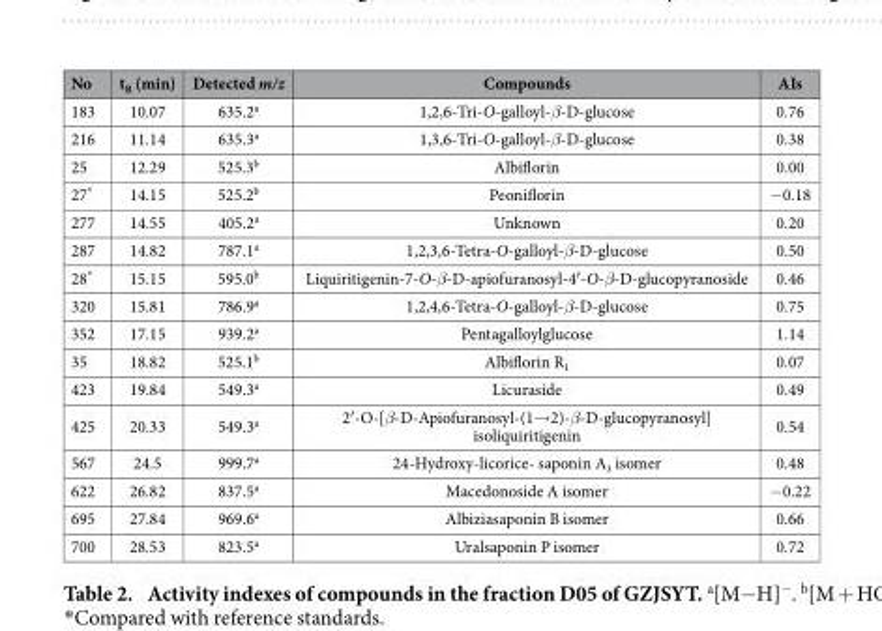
<table><thead><tr><td>No</td><td>t<sub>R</sub> (min)</td><td>Detected m/z</td><td>Compounds</td><td>AIs</td></tr></thead><tbody><tr><td>183</td><td>10.07</td><td>635.2<sup>a</sup></td><td>1,2,6-Tri-O-galloyl-β-D-glucose</td><td>0.76</td></tr><tr><td>216</td><td>11.14</td><td>635.3<sup>a</sup></td><td>1,3,6-Tri-O-galloyl-β-D-glucose</td><td>0.38</td></tr><tr><td>25</td><td>12.29</td><td>525.3<sup>b</sup></td><td>Albiflorin</td><td>0.00</td></tr><tr><td>27*</td><td>14.15</td><td>525.2<sup>b</sup></td><td>Peoniflorin</td><td>− 0.18</td></tr><tr><td>277</td><td>14.55</td><td>405.2<sup>a</sup></td><td>Unknown</td><td>0.20</td></tr><tr><td>287</td><td>14.82</td><td>787.1<sup>a</sup></td><td>1,2,3,6-Tetra-O-galloyl-β-D-glucose</td><td>0.50</td></tr><tr><td>28*</td><td>15.15</td><td>595.0<sup>b</sup></td><td>Liquiritigenin-7-O-β-D-apiofuranosyl-4′ -O-β-D-glucopyranoside</td><td>0.46</td></tr><tr><td>320</td><td>15.81</td><td>786.9<sup>a</sup></td><td>1,2,4,6-Tetra-O-galloyl-β-D-glucose</td><td>0.75</td></tr><tr><td>352</td><td>17.15</td><td>939.2<sup>a</sup></td><td>Pentagalloylglucose</td><td>1.14</td></tr><tr><td>35</td><td>18.82</td><td>525.1<sup>b</sup></td><td>Albiflorin R<sub>1</sub></td><td>0.07</td></tr><tr><td>423</td><td>19.84</td><td>549.3<sup>a</sup></td><td>Licuraside</td><td>0.49</td></tr><tr><td>425</td><td>20.33</td><td>549.3<sup>a</sup></td><td>2′ -O-[β-D-Apiofuranosyl-(1→ 2)-β-D-glucopyranosyl] isoliquiritigenin</td><td>0.54</td></tr><tr><td>567</td><td>24.5</td><td>999.7<sup>a</sup></td><td>24-Hydroxy-licorice- saponin A<sub>3</sub> isomer</td><td>0.48</td></tr><tr><td>622</td><td>26.82</td><td>837.5<sup>a</sup></td><td>Macedonoside A isomer</td><td>− 0.22</td></tr><tr><td>695</td><td>27.84</td><td>969.6<sup>a</sup></td><td>Albiziasaponin B isomer</td><td>0.66</td></tr><tr><td>700</td><td>28.53</td><td>823.5<sup>a</sup></td><td>Uralsaponin P isomer</td><td>0.72</td></tr></tbody></table>